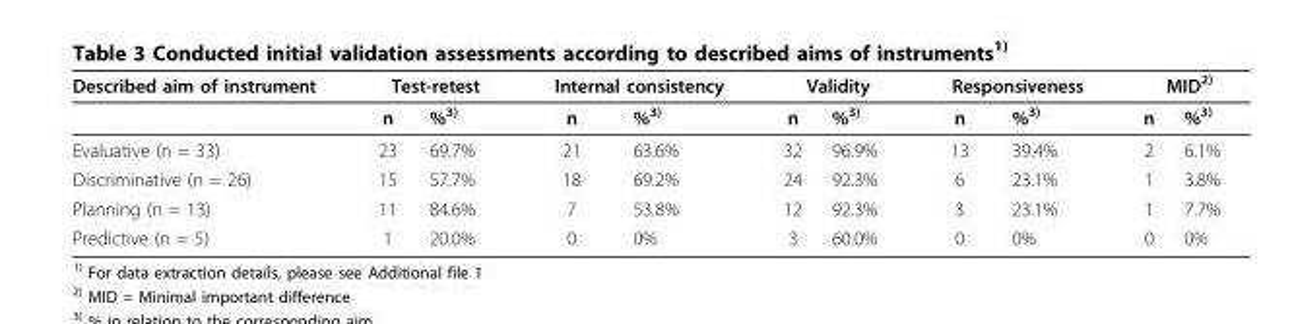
<table><thead><tr><td rowspan="2">Described aim of instrument</td><td colspan="2">Test-retest</td><td colspan="2">Internal consistency</td><td colspan="2">Validity</td><td colspan="2">Responsiveness</td><td colspan="2">MID<sup>2)</sup></td></tr><tr><td>n</td><td>%<sup>3)</sup></td><td>n</td><td>%<sup>3)</sup></td><td>n</td><td>%<sup>3)</sup></td><td>n</td><td>%<sup>3)</sup></td><td>n</td><td>%<sup>3)</sup></td></tr></thead><tbody><tr><td>Evaluative (n = 33)</td><td>23</td><td>69.7%</td><td>21</td><td>63.6%</td><td>32</td><td>96.9%</td><td>13</td><td>39.4%</td><td>2</td><td>6.1%</td></tr><tr><td>Discriminative (n = 26)</td><td>15</td><td>57.7%</td><td>18</td><td>69.2%</td><td>24</td><td>92.3%</td><td>6</td><td>23.1%</td><td>1</td><td>3.8%</td></tr><tr><td>Planning (n = 13)</td><td>11</td><td>84.6%</td><td>7</td><td>53.8%</td><td>12</td><td>92.3%</td><td>3</td><td>23.1%</td><td>1</td><td>7.7%</td></tr><tr><td>Predictive (n = 5)</td><td>1</td><td>20.0%</td><td>0</td><td>0%</td><td>3</td><td>60.0%</td><td>0</td><td>0%</td><td>0</td><td>0%</td></tr></tbody></table>